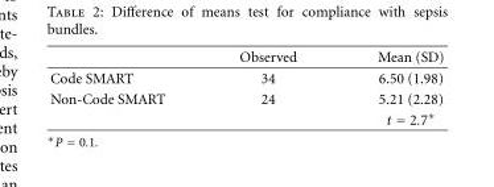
<table><thead><tr><td></td><td>Observed</td><td>Mean (SD)</td></tr></thead><tbody><tr><td>Code SMART</td><td>34</td><td>6.50 (1.98)</td></tr><tr><td rowspan="2">Non-Code SMART</td><td>24</td><td>5.21 (2.28)</td></tr><tr><td></td><td>t = 2.7∗</td></tr></tbody></table>